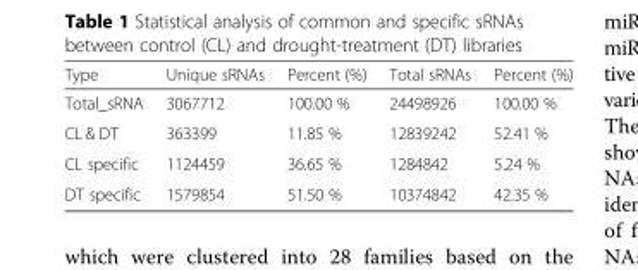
<table><thead><tr><td>Type</td><td>Unique sRNAs</td><td>Percent (%)</td><td>Total sRNAs</td><td>Percent (%)</td></tr></thead><tbody><tr><td>Total_sRNA</td><td>3067712</td><td>100.00 %</td><td>24498926</td><td>100.00 %</td></tr><tr><td>CL &amp; DT</td><td>363399</td><td>11.85 %</td><td>12839242</td><td>52.41 %</td></tr><tr><td>CL specific</td><td>1124459</td><td>36.65 %</td><td>1284842</td><td>5.24 %</td></tr><tr><td>DT specific</td><td>1579854</td><td>51.50 %</td><td>10374842</td><td>42.35 %</td></tr></tbody></table>